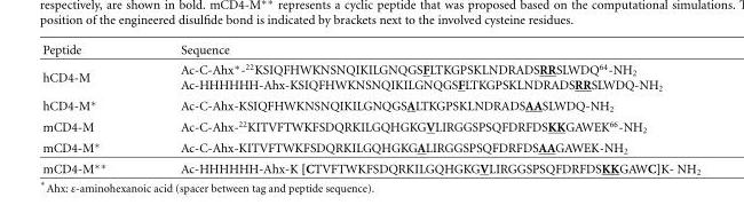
<table><thead><tr><td>Peptide</td><td>Sequence</td></tr></thead><tbody><tr><td rowspan="2">hCD4-M</td><td>Ac-C-Ahx∗-22KSIQFHWKNSNQIKILGNQGSFLTKGPSKLNDRADSRRSLWDQ64-NH2</td></tr><tr><td>Ac-HHHHHH-Ahx-KSIQFHWKNSNQIKILGNQGSFLTKGPSKLNDRADSRRSLWDQ-NH2</td></tr><tr><td>hCD4-M∗</td><td>Ac-C-Ahx-KSIQFHWKNSNQIKILGNQGSALTKGPSKLNDRADSAASLWDQ-NH2</td></tr><tr><td>mCD4-M</td><td>Ac-C-Ahx-22KITVFTWKFSDQRKILGQHGKGVLIRGGSPSQFDRFDSKKGAWEK66-NH2</td></tr><tr><td>mCD4-M∗</td><td>Ac-C-Ahx-KITVFTWKFSDQRKILGQHGKGALIRGGSPSQFDRFDSAAGAWEK-NH2</td></tr><tr><td>mCD4-M∗∗</td><td>Ac-HHHHHH-Ahx-K [CTVFTWKFSDQRKILGQHGKGVLIRGGSPSQFDRFDSKKGAWC]K- NH2</td></tr></tbody></table>